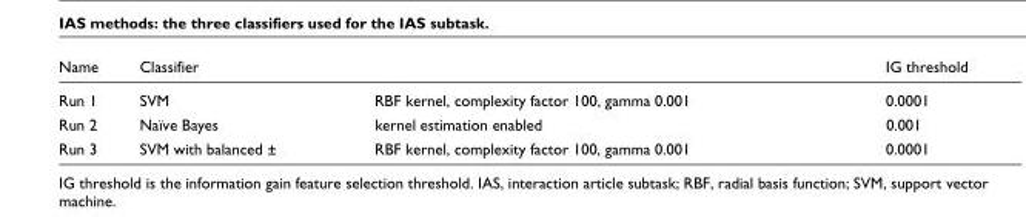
<table><thead><tr><td>Name</td><td>Classifier</td><td></td><td>IG threshold</td></tr></thead><tbody><tr><td>Run 1</td><td>SVM</td><td>RBF kernel, complexity factor 100, gamma 0.001</td><td>0.0001</td></tr><tr><td>Run 2</td><td>Naïve Bayes</td><td>kernel estimation enabled</td><td>0.001</td></tr><tr><td>Run 3</td><td>SVM with balanced ±</td><td>RBF kernel, complexity factor 100, gamma 0.001</td><td>0.0001</td></tr></tbody></table>